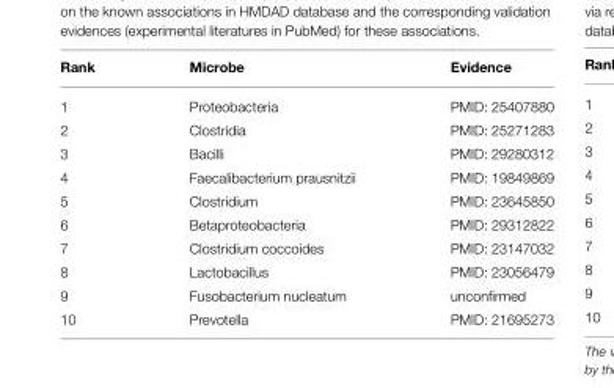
<table><thead><tr><td>Rank</td><td>Microbe</td><td>Evidence</td></tr></thead><tbody><tr><td>1</td><td>Proteobacteria</td><td>PMID: 25407880</td></tr><tr><td>2</td><td>Clostridia</td><td>PMID: 25271283</td></tr><tr><td>3</td><td>Bacilli</td><td>PMID: 29280312</td></tr><tr><td>4</td><td>Faecalibacterium prausnitzii</td><td>PMID: 19849869</td></tr><tr><td>5</td><td>Clostridium</td><td>PMID: 23645850</td></tr><tr><td>6</td><td>Betaproteobacteria</td><td>PMID: 29312822</td></tr><tr><td>7</td><td>Clostridium coccoides</td><td>PMID: 23147032</td></tr><tr><td>8</td><td>Lactobacillus</td><td>PMID: 23056479</td></tr><tr><td>9</td><td>Fusobacterium nucleatum</td><td>unconfirmed</td></tr><tr><td>10</td><td>Prevotella</td><td>PMID: 21695273</td></tr></tbody></table>